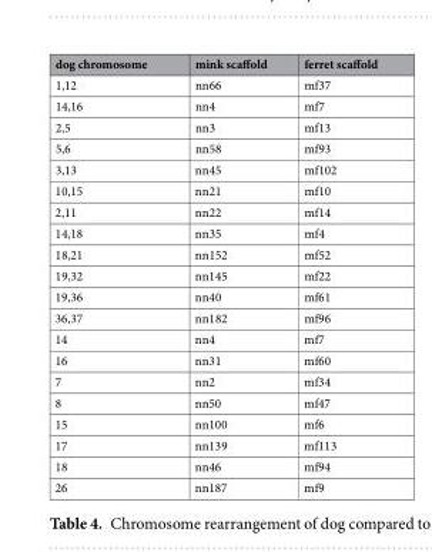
<table><thead><tr><td>dog chromosome</td><td>mink scaffold</td><td>ferret scaffold</td></tr></thead><tbody><tr><td>1,12</td><td>nn66</td><td>mf37</td></tr><tr><td>14,16</td><td>nn4</td><td>mf7</td></tr><tr><td>2,5</td><td>nn3</td><td>mf13</td></tr><tr><td>5,6</td><td>nn58</td><td>mf93</td></tr><tr><td>3,13</td><td>nn45</td><td>mf102</td></tr><tr><td>10,15</td><td>nn21</td><td>mf10</td></tr><tr><td>2,11</td><td>nn22</td><td>mf14</td></tr><tr><td>14,18</td><td>nn35</td><td>mf4</td></tr><tr><td>18,21</td><td>nn152</td><td>mf52</td></tr><tr><td>19,32</td><td>nn145</td><td>mf22</td></tr><tr><td>19,36</td><td>nn40</td><td>mf61</td></tr><tr><td>36,37</td><td>nn182</td><td>mf96</td></tr><tr><td>14</td><td>nn4</td><td>mf7</td></tr><tr><td>16</td><td>nn31</td><td>mf60</td></tr><tr><td>7</td><td>nn2</td><td>mf34</td></tr><tr><td>8</td><td>nn50</td><td>mf47</td></tr><tr><td>15</td><td>nn100</td><td>mf6</td></tr><tr><td>17</td><td>nn139</td><td>mf113</td></tr><tr><td>18</td><td>nn46</td><td>mf94</td></tr><tr><td>26</td><td>nn187</td><td>mf9</td></tr></tbody></table>